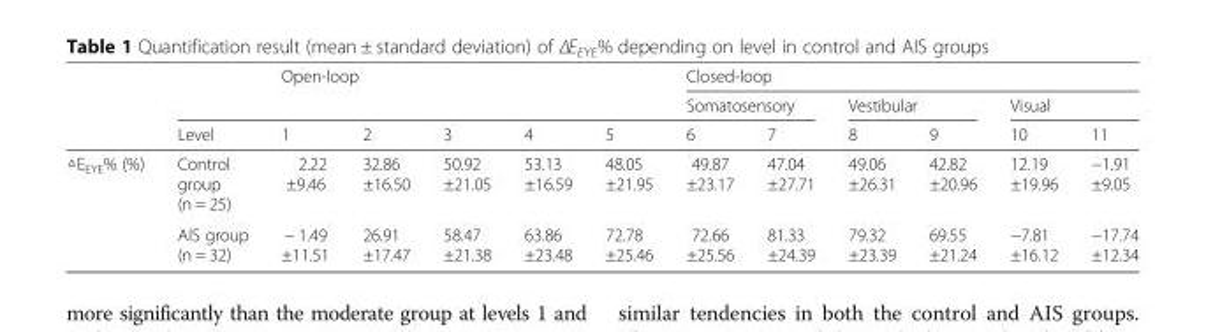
<table><thead><tr><td rowspan="3"></td><td rowspan="3">Level</td><td rowspan="2" colspan="5">Open-loop</td><td colspan="6">Closed-loop</td></tr><tr><td colspan="2">Somatosensory</td><td colspan="2">Vestibular</td><td colspan="2">Visual</td></tr><tr><td>1</td><td>2</td><td>3</td><td>4</td><td>5</td><td>6</td><td>7</td><td>8</td><td>9</td><td>10</td><td>11</td></tr></thead><tbody><tr><td rowspan="2">△E<sub>EYE</sub>% (%)</td><td>Control group (n = 25)</td><td>2.22 ±9.46</td><td>32.86 ±16.50</td><td>50.92 ±21.05</td><td>53.13 ±16.59</td><td>48.05 ±21.95</td><td>49.87 ±23.17</td><td>47.04 ±27.71</td><td>49.06 ±26.31</td><td>42.82 ±20.96</td><td>12.19 ±19.96</td><td>−1.91 ±9.05</td></tr><tr><td>AIS group (n = 32)</td><td>− 1.49 ±11.51</td><td>26.91 ±17.47</td><td>58.47 ±21.38</td><td>63.86 ±23.48</td><td>72.78 ±25.46</td><td>72.66 ±25.56</td><td>81.33 ±24.39</td><td>79.32 ±23.39</td><td>69.55 ±21.24</td><td>−7.81 ±16.12</td><td>−17.74 ±12.34</td></tr></tbody></table>